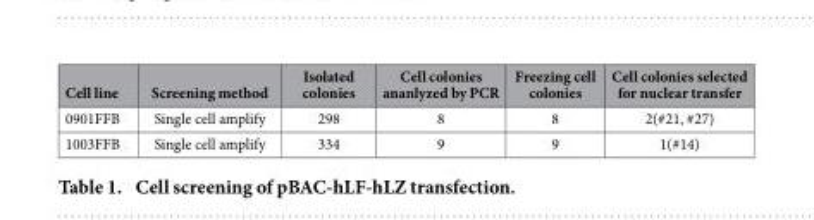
<table><thead><tr><td>Cell line</td><td>Screening method</td><td>Isolated colonies</td><td>Cell colonies ananlyzed by PCR</td><td>Freezing cell colonies</td><td>Cell colonies selected for nuclear transfer</td></tr></thead><tbody><tr><td>0901FFB</td><td>Single cell amplify</td><td>298</td><td>8</td><td>8</td><td>2(#21, #27)</td></tr><tr><td>1003FFB</td><td>Single cell amplify</td><td>334</td><td>9</td><td>9</td><td>1(#14)</td></tr></tbody></table>